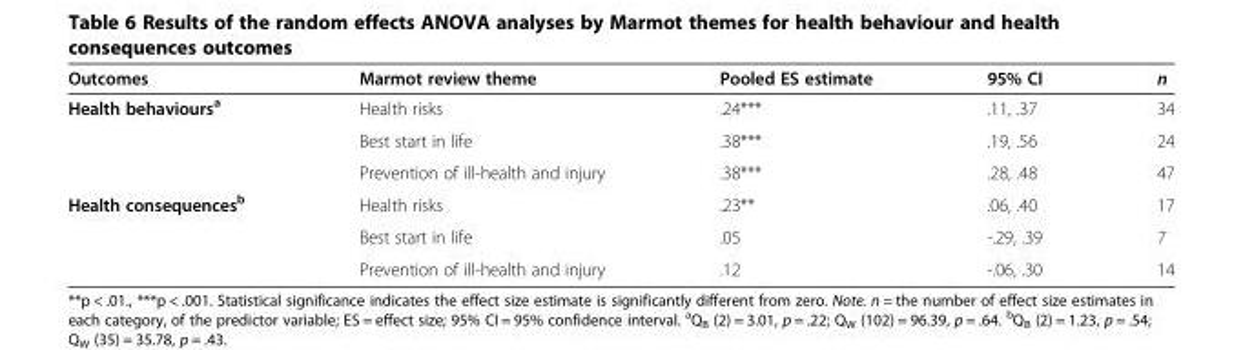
<table><thead><tr><td>Outcomes</td><td>Marmot review theme</td><td>Pooled ES estimate</td><td>95% CI</td><td>n</td></tr></thead><tbody><tr><td rowspan="3">Health behaviours<sup>a</sup></td><td>Health risks</td><td>.24***</td><td>.11, .37</td><td>34</td></tr><tr><td>Best start in life</td><td>.38***</td><td>.19, .56</td><td>24</td></tr><tr><td>Prevention of ill-health and injury</td><td>.38***</td><td>.28, .48</td><td>47</td></tr><tr><td rowspan="3">Health consequences<sup>b</sup></td><td>Health risks</td><td>.23**</td><td>.06, .40</td><td>17</td></tr><tr><td>Best start in life</td><td>.05</td><td>-.29, .39</td><td>7</td></tr><tr><td>Prevention of ill-health and injury</td><td>.12</td><td>-.06, .30</td><td>14</td></tr></tbody></table>